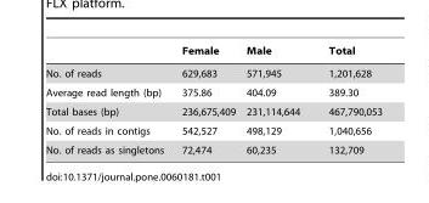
<table><thead><tr><td></td><td>Female</td><td>Male</td><td>Total</td></tr></thead><tbody><tr><td>No. of reads</td><td>629,683</td><td>571,945</td><td>1,201,628</td></tr><tr><td>Average read length (bp)</td><td>375.86</td><td>404.09</td><td>389.30</td></tr><tr><td>Total bases (bp)</td><td>236,675,409</td><td>231,114,644</td><td>467,790,053</td></tr><tr><td>No. of reads in contigs</td><td>542,527</td><td>498,129</td><td>1,040,656</td></tr><tr><td>No. of reads as singletons</td><td>72,474</td><td>60,235</td><td>132,709</td></tr></tbody></table>